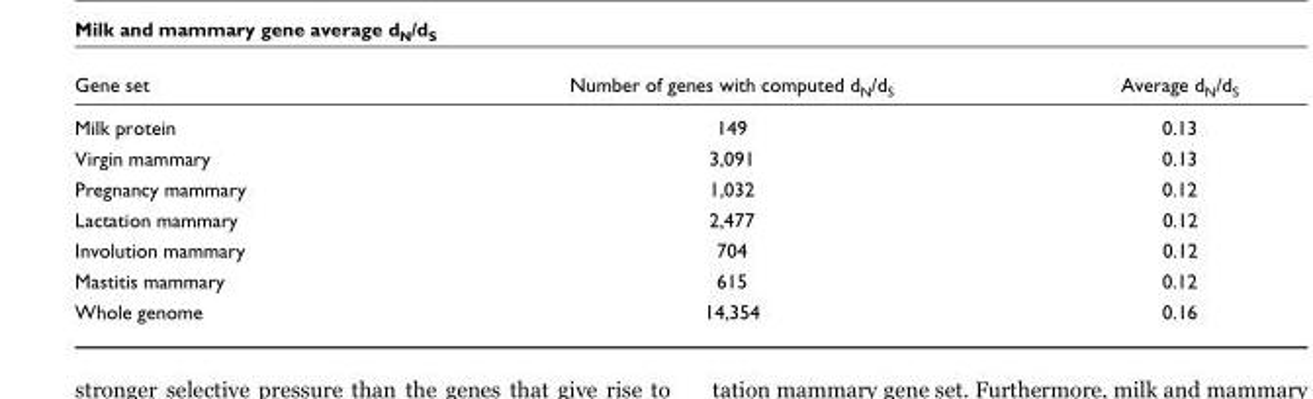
<table><thead><tr><td>Gene set</td><td>Number of genes with computed d<sub>N</sub>/d<sub>S</sub></td><td>Average d<sub>N</sub>/d<sub>S</sub></td></tr></thead><tbody><tr><td>Milk protein</td><td>149</td><td>0.13</td></tr><tr><td>Virgin mammary</td><td>3,091</td><td>0.13</td></tr><tr><td>Pregnancy mammary</td><td>1,032</td><td>0.12</td></tr><tr><td>Lactation mammary</td><td>2,477</td><td>0.12</td></tr><tr><td>Involution mammary</td><td>704</td><td>0.12</td></tr><tr><td>Mastitis mammary</td><td>615</td><td>0.12</td></tr><tr><td>Whole genome</td><td>14,354</td><td>0.16</td></tr></tbody></table>